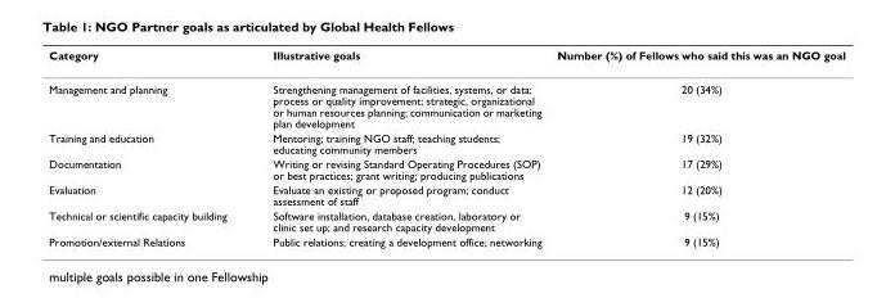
<table><thead><tr><td>Category</td><td>Illustrative goals</td><td>Number (%) of Fellows who said this was an NGO goal</td></tr></thead><tbody><tr><td>Management and planning</td><td>Strengthening management of facilities, systems, or data; process or quality improvement; strategic, organizational or human resources planning; communication or marketing plan development</td><td>20 (34%)</td></tr><tr><td>Training and education</td><td>Mentoring; training NGO staff; teaching students; educating community members</td><td>19 (32%)</td></tr><tr><td>Documentation</td><td>Writing or revising Standard Operating Procedures (SOP) or best practices; grant writing; producing publications</td><td>17 (29%)</td></tr><tr><td>Evaluation</td><td>Evaluate an existing or proposed program; conduct assessment of staff</td><td>12 (20%)</td></tr><tr><td>Technical or scientific capacity building</td><td>Software installation, database creation, laboratory or clinic set up; and research capacity development</td><td>9 (15%)</td></tr><tr><td>Promotion/external Relations</td><td>Public relations; creating a development office; networking</td><td>9 (15%)</td></tr></tbody></table>